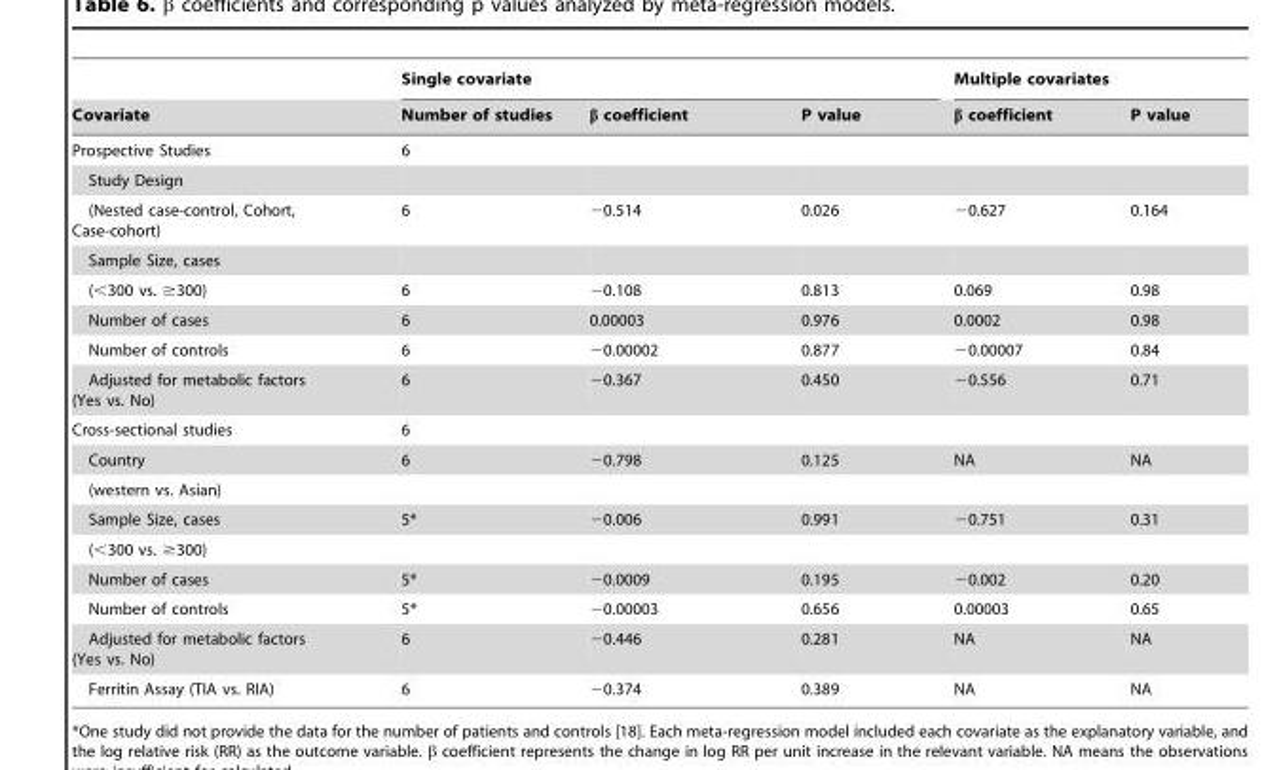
<table><thead><tr><td rowspan="2">Covariate</td><td colspan="3">Single covariate</td><td colspan="2">Multiple covariates</td></tr><tr><td>Number of studies</td><td>β coefficient</td><td>P value</td><td>β coefficient</td><td>P value</td></tr></thead><tbody><tr><td>Prospective Studies</td><td>6</td><td></td><td></td><td></td><td></td></tr><tr><td colspan="6">Study Design</td></tr><tr><td>(Nested case-control, Cohort, Case-cohort)</td><td>6</td><td>−0.514</td><td>0.026</td><td>−0.627</td><td>0.164</td></tr><tr><td colspan="6">Sample Size, cases</td></tr><tr><td>(&lt;300 vs. ≥300)</td><td>6</td><td>−0.108</td><td>0.813</td><td>0.069</td><td>0.98</td></tr><tr><td>Number of cases</td><td>6</td><td>0.00003</td><td>0.976</td><td>0.0002</td><td>0.98</td></tr><tr><td>Number of controls</td><td>6</td><td>−0.00002</td><td>0.877</td><td>−0.00007</td><td>0.84</td></tr><tr><td>Adjusted for metabolic factors (Yes vs. No)</td><td>6</td><td>−0.367</td><td>0.450</td><td>−0.556</td><td>0.71</td></tr><tr><td>Cross-sectional studies</td><td>6</td><td></td><td></td><td></td><td></td></tr><tr><td>Country</td><td>6</td><td>−0.798</td><td>0.125</td><td>NA</td><td>NA</td></tr><tr><td colspan="6">(western vs. Asian)</td></tr><tr><td>Sample Size, cases</td><td>5*</td><td>−0.006</td><td>0.991</td><td>−0.751</td><td>0.31</td></tr><tr><td colspan="6">(&lt;300 vs. ≥300)</td></tr><tr><td>Number of cases</td><td>5*</td><td>−0.0009</td><td>0.195</td><td>−0.002</td><td>0.20</td></tr><tr><td>Number of controls</td><td>5*</td><td>−0.00003</td><td>0.656</td><td>0.00003</td><td>0.65</td></tr><tr><td>Adjusted for metabolic factors (Yes vs. No)</td><td>6</td><td>−0.446</td><td>0.281</td><td>NA</td><td>NA</td></tr><tr><td>Ferritin Assay (TIA vs. RIA)</td><td>6</td><td>−0.374</td><td>0.389</td><td>NA</td><td>NA</td></tr></tbody></table>